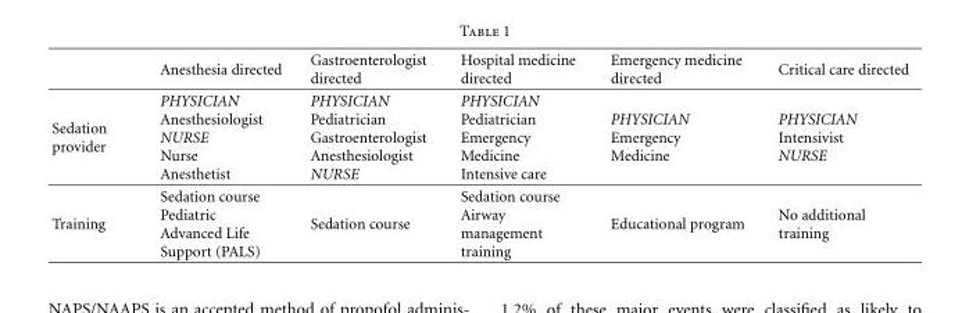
<table><thead><tr><td></td><td>Anesthesia directed</td><td>Gastroenterologist directed</td><td>Hospital medicine directed</td><td>Emergency medicine directed</td><td>Critical care directed</td></tr></thead><tbody><tr><td>Sedation provider</td><td>PHYSICIAN Anesthesiologist NURSE Nurse Anesthetist</td><td>PHYSICIAN Pediatrician Gastroenterologist Anesthesiologist NURSE</td><td>PHYSICIAN Pediatrician Emergency Medicine Intensive care</td><td>PHYSICIAN Emergency Medicine</td><td>PHYSICIAN Intensivist NURSE</td></tr><tr><td>Training</td><td>Sedation course Pediatric Advanced Life Support (PALS)</td><td>Sedation course</td><td>Sedation course Airway management training</td><td>Educational program</td><td>No additional training</td></tr></tbody></table>